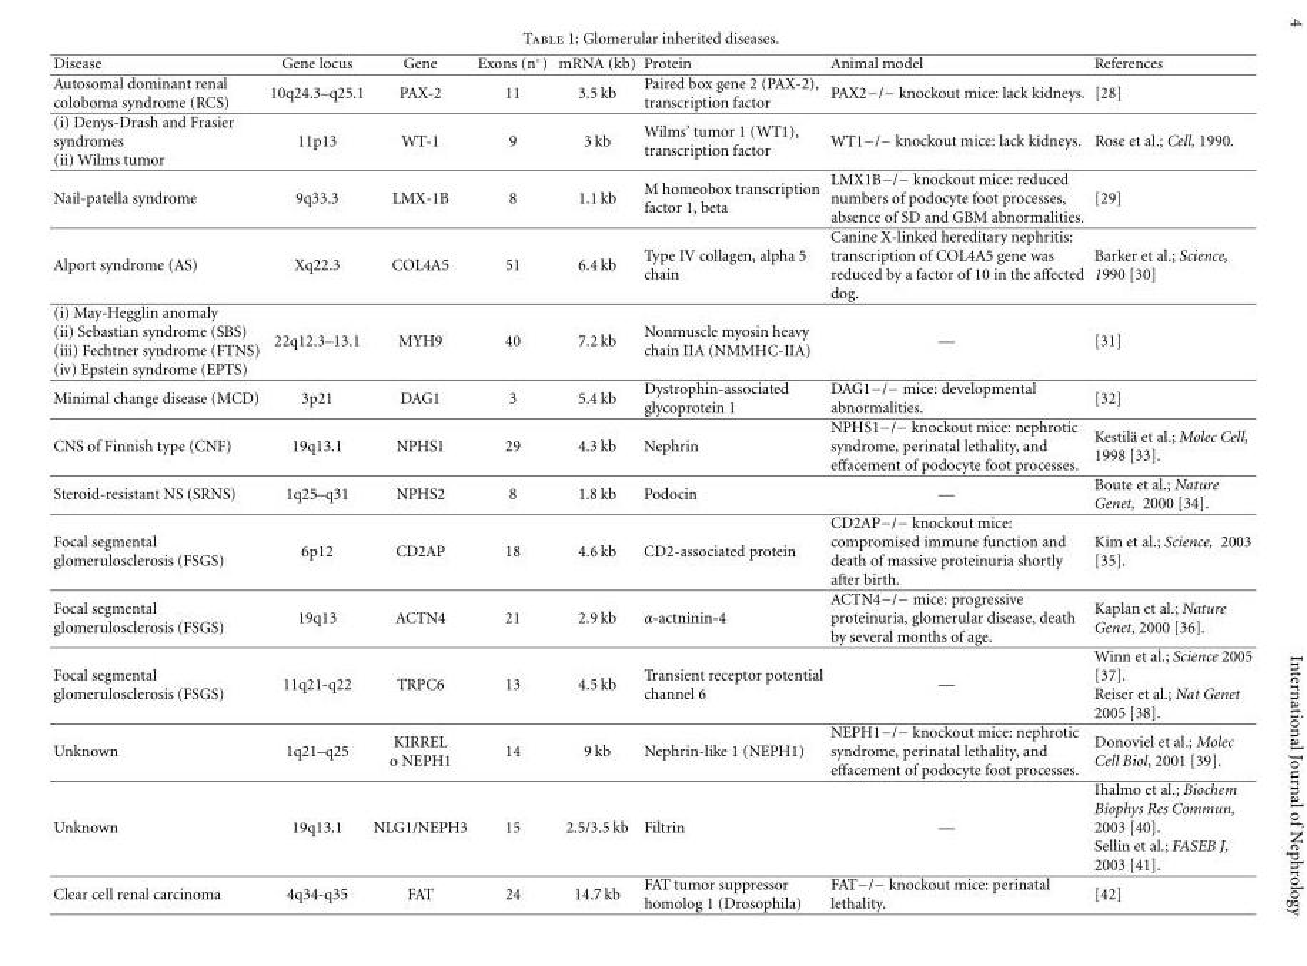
<table><thead><tr><td>Disease</td><td>Gene locus</td><td>Gene</td><td>Exons (n◦)</td><td>mRNA (kb)</td><td>Protein</td><td>Animal model</td><td>References</td></tr></thead><tbody><tr><td>Autosomal dominant renal coloboma syndrome (RCS)</td><td>10q24.3–q25.1</td><td>PAX-2</td><td>11</td><td>3.5 kb</td><td>Paired box gene 2 (PAX-2), transcription factor</td><td>PAX2−/− knockout mice: lack kidneys.</td><td>[28]</td></tr><tr><td>(i) Denys-Drash and Frasier syndromes (ii) Wilms tumor</td><td>11p13</td><td>WT-1</td><td>9</td><td>3 kb</td><td>Wilms’ tumor 1 (WT1), transcription factor</td><td>WT1−/− knockout mice: lack kidneys.</td><td>Rose et al.; Cell, 1990.</td></tr><tr><td>Nail-patella syndrome</td><td>9q33.3</td><td>LMX-1B</td><td>8</td><td>1.1 kb</td><td>M homeobox transcription factor 1, beta</td><td>LMX1B−/− knockout mice: reduced numbers of podocyte foot processes, absence of SD and GBM abnormalities.</td><td>[29]</td></tr><tr><td>Alport syndrome (AS)</td><td>Xq22.3</td><td>COL4A5</td><td>51</td><td>6.4 kb</td><td>Type IV collagen, alpha 5 chain</td><td>Canine X-linked hereditary nephritis: transcription of COL4A5 gene was reduced by a factor of 10 in the affected dog.</td><td>Barker et al.; Science, 1990 [30]</td></tr><tr><td>(i) May-Hegglin anomaly (ii) Sebastian syndrome (SBS) (iii) Fechtner syndrome (FTNS) (iv) Epstein syndrome (EPTS)</td><td>22q12.3–13.1</td><td>MYH9</td><td>40</td><td>7.2 kb</td><td>Nonmuscle myosin heavy chain IIA (NMMHC-IIA)</td><td>—</td><td>[31]</td></tr><tr><td>Minimal change disease (MCD)</td><td>3p21</td><td>DAG1</td><td>3</td><td>5.4 kb</td><td>Dystrophin-associated glycoprotein 1</td><td>DAG1−/− mice: developmental abnormalities.</td><td>[32]</td></tr><tr><td>CNS of Finnish type (CNF)</td><td>19q13.1</td><td>NPHS1</td><td>29</td><td>4.3 kb</td><td>Nephrin</td><td>NPHS1−/− knockout mice: nephrotic syndrome, perinatal lethality, and effacement of podocyte foot processes.</td><td>Kestil¨a et al.; Molec Cell, 1998 [33].</td></tr><tr><td>Steroid-resistant NS (SRNS)</td><td>1q25–q31</td><td>NPHS2</td><td>8</td><td>1.8 kb</td><td>Podocin</td><td>—</td><td>Boute et al.; Nature Genet, 2000 [34].</td></tr><tr><td>Focal segmental glomerulosclerosis (FSGS)</td><td>6p12</td><td>CD2AP</td><td>18</td><td>4.6 kb</td><td>CD2-associated protein</td><td>CD2AP−/− knockout mice: compromised immune function and death of massive proteinuria shortly after birth.</td><td>Kim et al.; Science, 2003 [35].</td></tr><tr><td>Focal segmental glomerulosclerosis (FSGS)</td><td>19q13</td><td>ACTN4</td><td>21</td><td>2.9 kb</td><td>α-actninin-4</td><td>ACTN4−/− mice: progressive proteinuria, glomerular disease, death by several months of age.</td><td>Kaplan et al.; Nature Genet, 2000 [36].</td></tr><tr><td>Focal segmental glomerulosclerosis (FSGS)</td><td>11q21-q22</td><td>TRPC6</td><td>13</td><td>4.5 kb</td><td>Transient receptor potential channel 6</td><td>—</td><td>Winn et al.; Science 2005 [37]. Reiser et al.; Nat Genet 2005 [38].</td></tr><tr><td>Unknown</td><td>1q21–q25</td><td>KIRREL o NEPH1</td><td>14</td><td>9 kb</td><td>Nephrin-like 1 (NEPH1)</td><td>NEPH1−/− knockout mice: nephrotic syndrome, perinatal lethality, and effacement of podocyte foot processes.</td><td>Donoviel et al.; Molec Cell Biol, 2001 [39].</td></tr><tr><td>Unknown</td><td>19q13.1</td><td>NLG1/NEPH3</td><td>15</td><td>2.5/3.5 kb</td><td>Filtrin</td><td>—</td><td>Ihalmo et al.; Biochem Biophys Res Commun, 2003 [40]. Sellin et al.; FASEB J, 2003 [41].</td></tr><tr><td>Clear cell renal carcinoma</td><td>4q34-q35</td><td>FAT</td><td>24</td><td>14.7 kb</td><td>FAT tumor suppressor homolog 1 (Drosophila)</td><td>FAT−/− knockout mice: perinatal lethality.</td><td>[42]</td></tr></tbody></table>